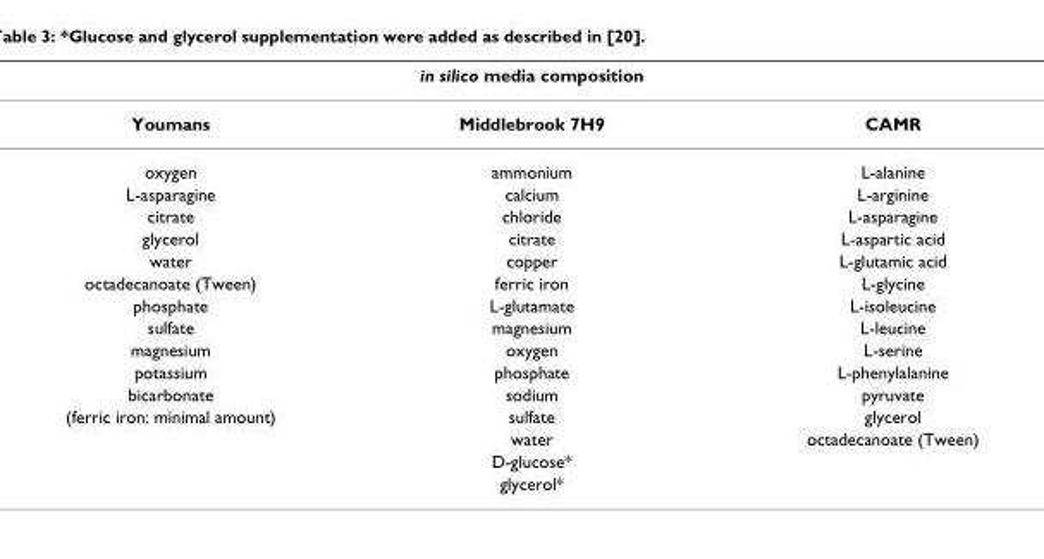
<table><thead><tr><td colspan="3">in silico media composition</td></tr><tr><td>Youmans</td><td>Middlebrook 7H9</td><td>CAMR</td></tr></thead><tbody><tr><td>oxygen</td><td>ammonium</td><td>L-alanine</td></tr><tr><td>L-asparagine</td><td>calcium</td><td>L-arginine</td></tr><tr><td>citrate</td><td>chloride</td><td>L-asparagine</td></tr><tr><td>glycerol</td><td>citrate</td><td>L-aspartic acid</td></tr><tr><td>water</td><td>copper</td><td>L-glutamic acid</td></tr><tr><td>octadecanoate (Tween)</td><td>ferric iron</td><td>L-glycine</td></tr><tr><td>phosphate</td><td>L-glutamate</td><td>L-isoleucine</td></tr><tr><td>sulfate</td><td>magnesium</td><td>L-leucine</td></tr><tr><td>magnesium</td><td>oxygen</td><td>L-serine</td></tr><tr><td>potassium</td><td>phosphate</td><td>L-phenylalanine</td></tr><tr><td>bicarbonate</td><td>sodium</td><td>pyruvate</td></tr><tr><td rowspan="4">(ferric iron: minimal amount)</td><td>sulfate</td><td>glycerol</td></tr><tr><td>water</td><td>octadecanoate (Tween)</td></tr><tr><td>D-glucose*</td><td></td></tr><tr><td>glycerol*</td><td></td></tr></tbody></table>